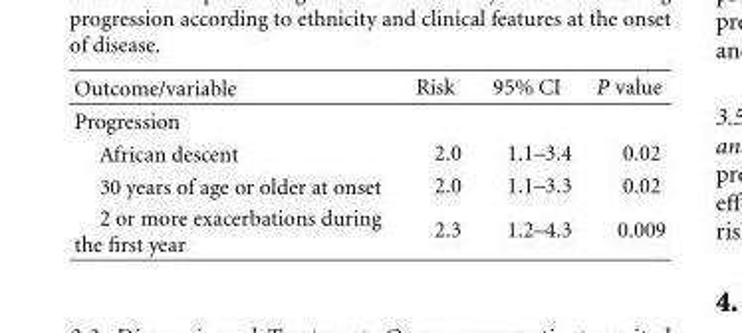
<table><thead><tr><td>Outcome/variable</td><td>Risk</td><td>95% CI</td><td>P value</td></tr></thead><tbody><tr><td colspan="4">Progression</td></tr><tr><td>African descent</td><td>2.0</td><td>1.1–3.4</td><td>0.02</td></tr><tr><td>30 years of age or older at onset</td><td>2.0</td><td>1.1–3.3</td><td>0.02</td></tr><tr><td>2 or more exacerbations during the first year</td><td>2.3</td><td>1.2–4.3</td><td>0.009</td></tr></tbody></table>